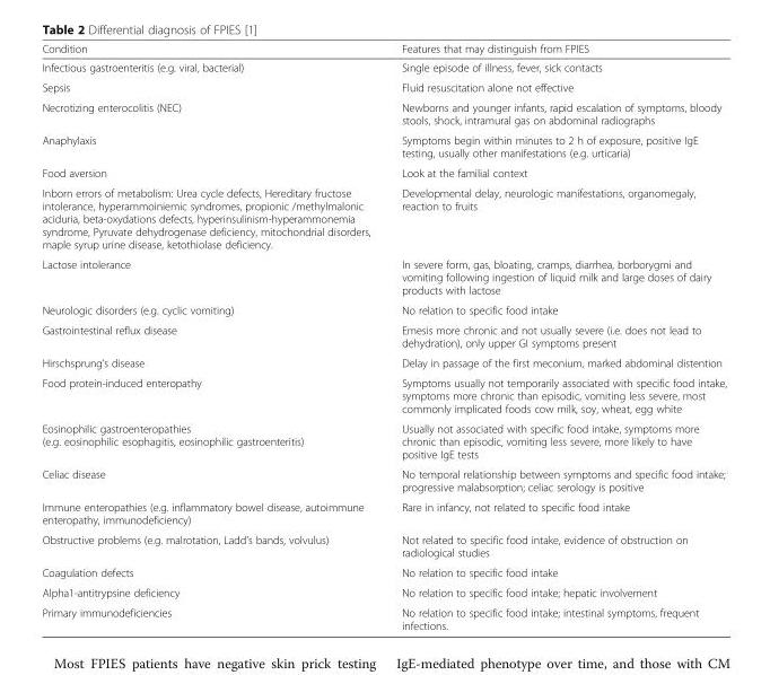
<table><thead><tr><td>Condition</td><td>Features that may distinguish from FPIES</td></tr></thead><tbody><tr><td>Infectious gastroenteritis (e.g. viral, bacterial)</td><td>Single episode of illness, fever, sick contacts</td></tr><tr><td>Sepsis</td><td>Fluid resuscitation alone not effective</td></tr><tr><td>Necrotizing enterocolitis (NEC)</td><td>Newborns and younger infants, rapid escalation of symptoms, bloody stools, shock, intramural gas on abdominal radiographs</td></tr><tr><td>Anaphylaxis</td><td>Symptoms begin within minutes to 2 h of exposure, positive IgE testing, usually other manifestations (e.g. urticaria)</td></tr><tr><td>Food aversion</td><td>Look at the familial context</td></tr><tr><td>Inborn errors of metabolism: Urea cycle defects, Hereditary fructose intolerance, hyperammoiniemic syndromes, propionic /methylmalonic aciduria, beta-oxydations defects, hyperinsulinism-hyperammonemia syndrome, Pyruvate dehydrogenase deficiency, mitochondrial disorders, maple syrup urine disease, ketothiolase deficiency.</td><td>Developmental delay, neurologic manifestations, organomegaly, reaction to fruits</td></tr><tr><td>Lactose intolerance</td><td>In severe form, gas, bloating, cramps, diarrhea, borborygmi and vomiting following ingestion of liquid milk and large doses of dairy products with lactose</td></tr><tr><td>Neurologic disorders (e.g. cyclic vomiting)</td><td>No relation to specific food intake</td></tr><tr><td>Gastrointestinal reflux disease</td><td>Emesis more chronic and not usually severe (i.e. does not lead to dehydration), only upper GI symptoms present</td></tr><tr><td>Hirschsprung’s disease</td><td>Delay in passage of the first meconium, marked abdominal distention</td></tr><tr><td>Food protein-induced enteropathy</td><td>Symptoms usually not temporarily associated with specific food intake, symptoms more chronic than episodic, vomiting less severe, most commonly implicated foods cow milk, soy, wheat, egg white</td></tr><tr><td>Eosinophilic gastroenteropathies (e.g. eosinophilic esophagitis, eosinophilic gastroenteritis)</td><td>Usually not associated with specific food intake, symptoms more chronic than episodic, vomiting less severe, more likely to have positive IgE tests</td></tr><tr><td>Celiac disease</td><td>No temporal relationship between symptoms and specific food intake; progressive malabsorption; celiac serology is positive</td></tr><tr><td>Immune enteropathies (e.g. inflammatory bowel disease, autoimmune enteropathy, immunodeficiency)</td><td>Rare in infancy, not related to specific food intake</td></tr><tr><td>Obstructive problems (e.g. malrotation, Ladd’s bands, volvulus)</td><td>Not related to specific food intake, evidence of obstruction on radiological studies</td></tr><tr><td>Coagulation defects</td><td>No relation to specific food intake</td></tr><tr><td>Alpha1-antitrypsine deficiency</td><td>No relation to specific food intake; hepatic involvement</td></tr><tr><td>Primary immunodeficiencies</td><td>No relation to specific food intake; intestinal symptoms, frequent infections.</td></tr></tbody></table>